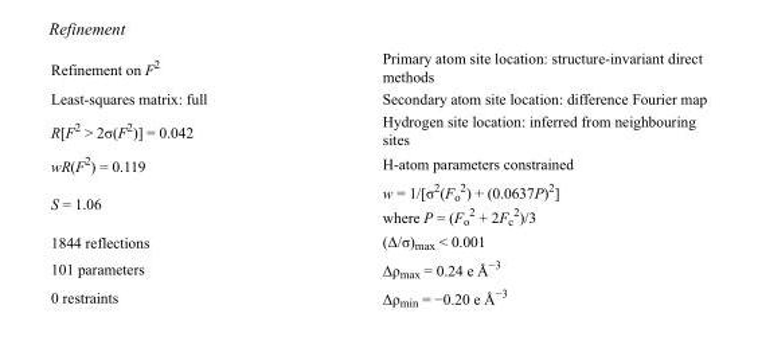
<table><tbody><tr><td>Refinement on F<sup>2</sup></td><td>Primary atom site location: structure-invariant direct methods</td></tr><tr><td>Least-squares matrix: full</td><td>Secondary atom site location: difference Fourier map</td></tr><tr><td>R[F<sup>2</sup> &gt; 2σ(F<sup>2</sup>)] = 0.042</td><td>Hydrogen site location: inferred from neighbouring sites</td></tr><tr><td>wR(F<sup>2</sup>) = 0.119</td><td>H-atom parameters constrained</td></tr><tr><td>S = 1.06</td><td>w = 1/[σ<sup>2</sup>(F<sub>o</sub> <sup>2</sup>) + (0.0637P)<sup>2</sup>] where P = (F<sub>o</sub> <sup>2</sup> + 2F<sub>c</sub> <sup>2</sup>)/3</td></tr><tr><td>1844 reflections</td><td>(Δ/σ)<sub>max</sub> &lt; 0.001</td></tr><tr><td>101 parameters</td><td>Δρ<sub>max</sub> = 0.24 e Å<sup>−3</sup></td></tr><tr><td>0 restraints</td><td>Δρ<sub>min</sub> = −0.20 e Å<sup>−3</sup></td></tr></tbody></table>